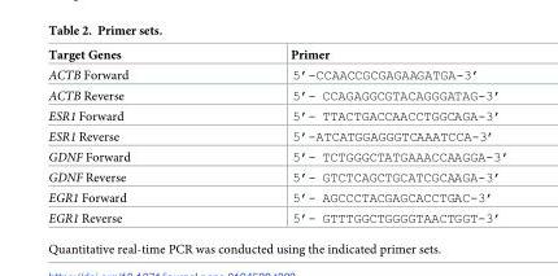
<table><thead><tr><td>Target Genes</td><td>Primer</td></tr></thead><tbody><tr><td>ACTB Forward</td><td>5’-CCAACCGCGAGAAGATGA-3’</td></tr><tr><td>ACTB Reverse</td><td>5’- CCAGAGGCGTACAGGGATAG-3’</td></tr><tr><td>ESR1 Forward</td><td>5’- TTACTGACCAACCTGGCAGA-3’</td></tr><tr><td>ESR1 Reverse</td><td>5’-ATCATGGAGGGTCAAATCCA-3’</td></tr><tr><td>GDNF Forward</td><td>5’- TCTGGGCTATGAAACCAAGGA-3’</td></tr><tr><td>GDNF Reverse</td><td>5’- GTCTCAGCTGCATCGCAAGA-3’</td></tr><tr><td>EGR1 Forward</td><td>5’- AGCCCTACGAGCACCTGAC-3’</td></tr><tr><td>EGR1 Reverse</td><td>5’- GTTTGGCTGGGGTAACTGGT-3’</td></tr></tbody></table>